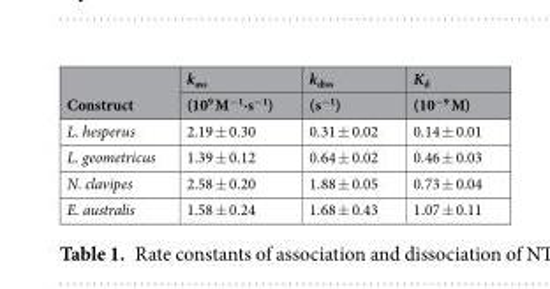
<table><thead><tr><td rowspan="2">Construct</td><td rowspan="2">k<sub>ass</sub> (10<sup>9</sup> M<sup>−1</sup>·s<sup>−1</sup>)</td><td rowspan="2">k<sub>diss</sub> (s<sup>−1</sup>)</td><td rowspan="2">K<sub>d</sub> (10<sup>−9</sup> M)</td></tr><tr></tr></thead><tbody><tr><td>L. hesperus</td><td>2.19 ± 0.30</td><td>0.31 ± 0.02</td><td>0.14 ± 0.01</td></tr><tr><td>L. geometricus</td><td>1.39 ± 0.12</td><td>0.64 ± 0.02</td><td>0.46 ± 0.03</td></tr><tr><td>N. clavipes</td><td>2.58 ± 0.20</td><td>1.88 ± 0.05</td><td>0.73 ± 0.04</td></tr><tr><td>E. australis</td><td>1.58 ± 0.24</td><td>1.68 ± 0.43</td><td>1.07 ± 0.11</td></tr></tbody></table>